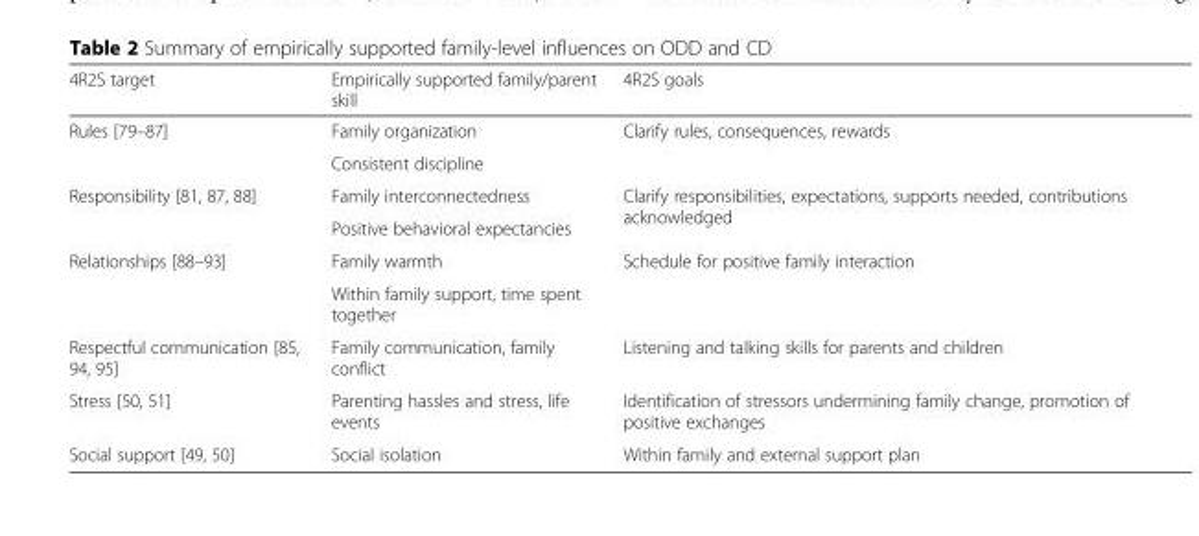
<table><thead><tr><td>4R2S target</td><td>Empirically supported family/parent skill</td><td>4R2S goals</td></tr></thead><tbody><tr><td rowspan="2">Rules [79–87]</td><td>Family organization</td><td rowspan="2">Clarify rules, consequences, rewards</td></tr><tr><td>Consistent discipline</td></tr><tr><td rowspan="2">Responsibility [81, 87, 88]</td><td>Family interconnectedness</td><td rowspan="2">Clarify responsibilities, expectations, supports needed, contributions acknowledged</td></tr><tr><td>Positive behavioral expectancies</td></tr><tr><td rowspan="2">Relationships [88–93]</td><td>Family warmth</td><td rowspan="2">Schedule for positive family interaction</td></tr><tr><td>Within family support, time spent together</td></tr><tr><td>Respectful communication [85, 94, 95]</td><td>Family communication, family conflict</td><td>Listening and talking skills for parents and children</td></tr><tr><td>Stress [50, 51]</td><td>Parenting hassles and stress, life events</td><td>Identification of stressors undermining family change, promotion of positive exchanges</td></tr><tr><td>Social support [49, 50]</td><td>Social isolation</td><td>Within family and external support plan</td></tr></tbody></table>